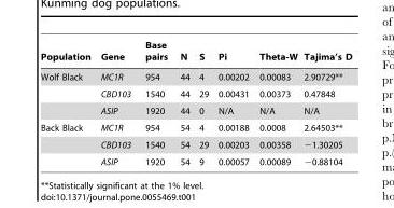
<table><thead><tr><td>Population</td><td>Gene</td><td>Base pairs</td><td>N</td><td>S</td><td>Pi</td><td>Theta-W</td><td>Tajima’s D</td></tr></thead><tbody><tr><td rowspan="3">Wolf Black</td><td>MC1R</td><td>954</td><td>44</td><td>4</td><td>0.00202</td><td>0.00083</td><td>2.90729**</td></tr><tr><td>CBD103</td><td>1540</td><td>44</td><td>29</td><td>0.00431</td><td>0.00373</td><td>0.47848</td></tr><tr><td>ASIP</td><td>1920</td><td>44</td><td>0</td><td>N/A</td><td>N/A</td><td>N/A</td></tr><tr><td rowspan="3">Back Black</td><td>MC1R</td><td>954</td><td>54</td><td>4</td><td>0.00188</td><td>0.0008</td><td>2.64503**</td></tr><tr><td>CBD103</td><td>1540</td><td>54</td><td>29</td><td>0.00203</td><td>0.00358</td><td>−1.30205</td></tr><tr><td>ASIP</td><td>1920</td><td>54</td><td>9</td><td>0.00057</td><td>0.00089</td><td>−0.88104</td></tr></tbody></table>